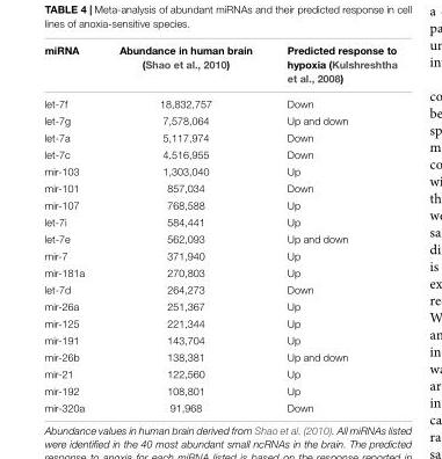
<table><thead><tr><td>miRNA</td><td>Abundance in human brain (Shao et al., 2010)</td><td>Predicted response to hypoxia (Kulshreshtha et al., 2008)</td></tr></thead><tbody><tr><td>let-7f</td><td>18,832,757</td><td>Down</td></tr><tr><td>let-7g</td><td>7,578,064</td><td>Up and down</td></tr><tr><td>let-7a</td><td>5,117,974</td><td>Down</td></tr><tr><td>let-7c</td><td>4,516,955</td><td>Down</td></tr><tr><td>mir-103</td><td>1,303,040</td><td>Up</td></tr><tr><td>mir-101</td><td>857,034</td><td>Down</td></tr><tr><td>mir-107</td><td>768,588</td><td>Up</td></tr><tr><td>let-7i</td><td>584,441</td><td>Up</td></tr><tr><td>let-7e</td><td>562,093</td><td>Up and down</td></tr><tr><td>mir-7</td><td>371,940</td><td>Up</td></tr><tr><td>mir-181a</td><td>270,803</td><td>Up</td></tr><tr><td>let-7d</td><td>264,273</td><td>Down</td></tr><tr><td>mir-26a</td><td>251,367</td><td>Up</td></tr><tr><td>mir-125</td><td>221,344</td><td>Up</td></tr><tr><td>mir-191</td><td>143,704</td><td>Up</td></tr><tr><td>mir-26b</td><td>138,381</td><td>Up and down</td></tr><tr><td>mir-21</td><td>122,560</td><td>Up</td></tr><tr><td>mir-192</td><td>108,801</td><td>Up</td></tr><tr><td>mir-320a</td><td>91,968</td><td>Down</td></tr></tbody></table>